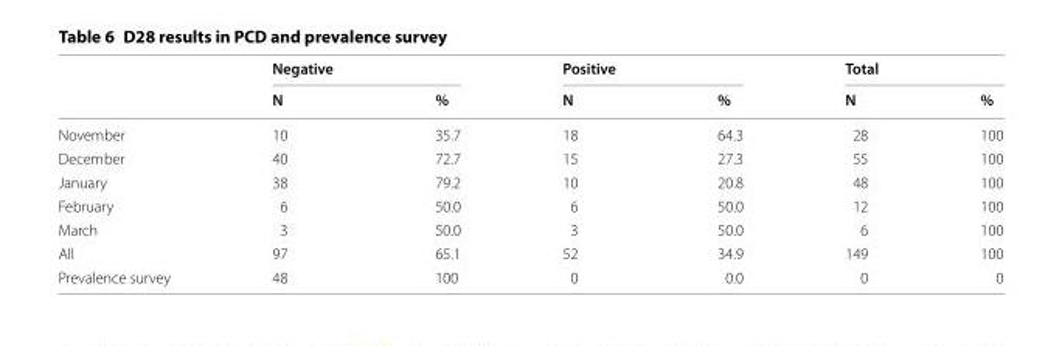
<table><thead><tr><td rowspan="2"></td><td colspan="2">Negative</td><td colspan="2">Positive</td><td colspan="2">Total</td></tr><tr><td>N</td><td>%</td><td>N</td><td>%</td><td>N</td><td>%</td></tr></thead><tbody><tr><td>November</td><td>10</td><td>35.7</td><td>18</td><td>64.3</td><td>28</td><td>100</td></tr><tr><td>December</td><td>40</td><td>72.7</td><td>15</td><td>27.3</td><td>55</td><td>100</td></tr><tr><td>January</td><td>38</td><td>79.2</td><td>10</td><td>20.8</td><td>48</td><td>100</td></tr><tr><td>February</td><td>6</td><td>50.0</td><td>6</td><td>50.0</td><td>12</td><td>100</td></tr><tr><td>March</td><td>3</td><td>50.0</td><td>3</td><td>50.0</td><td>6</td><td>100</td></tr><tr><td>All</td><td>97</td><td>65.1</td><td>52</td><td>34.9</td><td>149</td><td>100</td></tr><tr><td>Prevalence survey</td><td>48</td><td>100</td><td>0</td><td>0.0</td><td>0</td><td>0</td></tr></tbody></table>